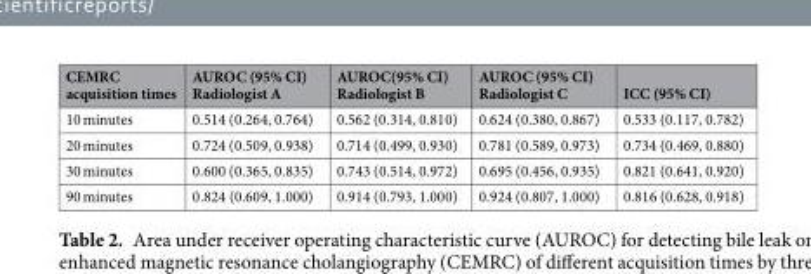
<table><thead><tr><td>CEMRC acquisition times</td><td>AUROC (95% CI) Radiologist A</td><td>AUROC(95% CI) Radiologist B</td><td>AUROC (95% CI) Radiologist C</td><td>ICC (95% CI)</td></tr></thead><tbody><tr><td>10 minutes</td><td>0.514 (0.264, 0.764)</td><td>0.562 (0.314, 0.810)</td><td>0.624 (0.380, 0.867)</td><td>0.533 (0.117, 0.782)</td></tr><tr><td>20 minutes</td><td>0.724 (0.509, 0.938)</td><td>0.714 (0.499, 0.930)</td><td>0.781 (0.589, 0.973)</td><td>0.734 (0.469, 0.880)</td></tr><tr><td>30 minutes</td><td>0.600 (0.365, 0.835)</td><td>0.743 (0.514, 0.972)</td><td>0.695 (0.456, 0.935)</td><td>0.821 (0.641, 0.920)</td></tr><tr><td>90 minutes</td><td>0.824 (0.609, 1.000)</td><td>0.914 (0.793, 1.000)</td><td>0.924 (0.807, 1.000)</td><td>0.816 (0.628, 0.918)</td></tr></tbody></table>